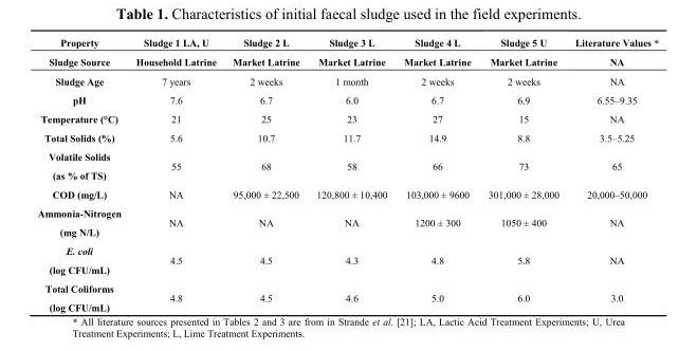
<table><thead><tr><td rowspan="2">Property Sludge Source</td><td rowspan="2">Sludge 1 LA, U Household Latrine</td><td rowspan="2">Sludge 2 L Market Latrine</td><td rowspan="2">Sludge 3 L Market Latrine</td><td rowspan="2">Sludge 4 L Market Latrine</td><td rowspan="2">Sludge 5 U Market Latrine</td><td rowspan="2">Literature Values * NA</td></tr><tr></tr></thead><tbody><tr><td>Sludge Age</td><td>7 years</td><td>2 weeks</td><td>1 month</td><td>2 weeks</td><td>2 weeks</td><td>NA</td></tr><tr><td>pH</td><td>7.6</td><td>6.7</td><td>6.0</td><td>6.7</td><td>6.9</td><td>6.55–9.35</td></tr><tr><td>Temperature (°C)</td><td>21</td><td>25</td><td>23</td><td>27</td><td>15</td><td>NA</td></tr><tr><td>Total Solids (%)</td><td>5.6</td><td>10.7</td><td>11.7</td><td>14.9</td><td>8.8</td><td>3.5–5.25</td></tr><tr><td>Volatile Solids (as % of TS)</td><td>55</td><td>68</td><td>58</td><td>66</td><td>73</td><td>65</td></tr><tr><td>COD (mg/L)</td><td>NA</td><td>95,000 ± 22,500</td><td>120,800 ± 10,400</td><td>103,000 ± 9600</td><td>301,000 ± 28,000</td><td>20,000–50,000</td></tr><tr><td>Ammonia-Nitrogen (mg N/L)</td><td>NA</td><td>NA</td><td>NA</td><td>1200 ± 300</td><td>1050 ± 400</td><td>NA</td></tr><tr><td>E. coli (log CFU/mL)</td><td>4.5</td><td>4.5</td><td>4.3</td><td>4.8</td><td>5.8</td><td>NA</td></tr><tr><td>Total Coliforms (log CFU/mL)</td><td>4.8</td><td>4.5</td><td>4.6</td><td>5.0</td><td>6.0</td><td>3.0</td></tr></tbody></table>